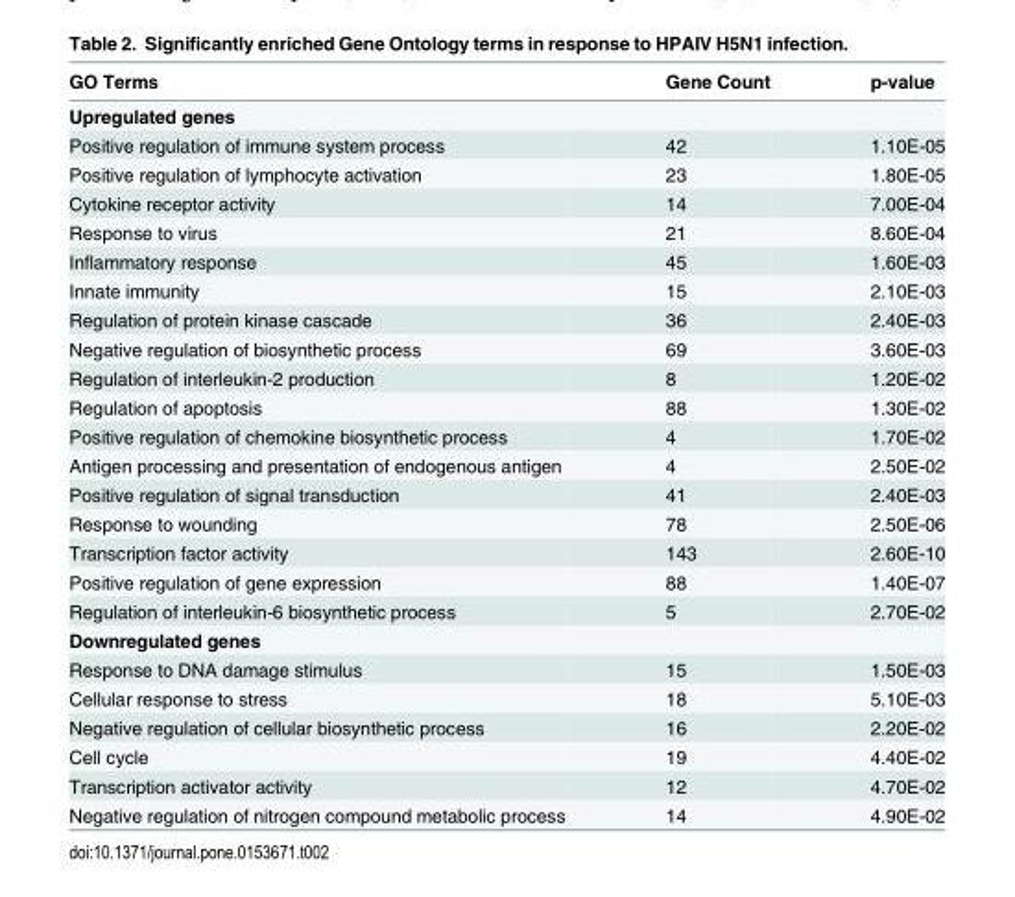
<table><thead><tr><td>GO Terms</td><td>Gene Count</td><td>p-value</td></tr></thead><tbody><tr><td colspan="3">Upregulated genes</td></tr><tr><td>Positive regulation of immune system process</td><td>42</td><td>1.10E-05</td></tr><tr><td>Positive regulation of lymphocyte activation</td><td>23</td><td>1.80E-05</td></tr><tr><td>Cytokine receptor activity</td><td>14</td><td>7.00E-04</td></tr><tr><td>Response to virus</td><td>21</td><td>8.60E-04</td></tr><tr><td>Inflammatory response</td><td>45</td><td>1.60E-03</td></tr><tr><td>Innate immunity</td><td>15</td><td>2.10E-03</td></tr><tr><td>Regulation of protein kinase cascade</td><td>36</td><td>2.40E-03</td></tr><tr><td>Negative regulation of biosynthetic process</td><td>69</td><td>3.60E-03</td></tr><tr><td>Regulation of interleukin-2 production</td><td>8</td><td>1.20E-02</td></tr><tr><td>Regulation of apoptosis</td><td>88</td><td>1.30E-02</td></tr><tr><td>Positive regulation of chemokine biosynthetic process</td><td>4</td><td>1.70E-02</td></tr><tr><td>Antigen processing and presentation of endogenous antigen</td><td>4</td><td>2.50E-02</td></tr><tr><td>Positive regulation of signal transduction</td><td>41</td><td>2.40E-03</td></tr><tr><td>Response to wounding</td><td>78</td><td>2.50E-06</td></tr><tr><td>Transcription factor activity</td><td>143</td><td>2.60E-10</td></tr><tr><td>Positive regulation of gene expression</td><td>88</td><td>1.40E-07</td></tr><tr><td>Regulation of interleukin-6 biosynthetic process</td><td>5</td><td>2.70E-02</td></tr><tr><td colspan="3">Downregulated genes</td></tr><tr><td>Response to DNA damage stimulus</td><td>15</td><td>1.50E-03</td></tr><tr><td>Cellular response to stress</td><td>18</td><td>5.10E-03</td></tr><tr><td>Negative regulation of cellular biosynthetic process</td><td>16</td><td>2.20E-02</td></tr><tr><td>Cell cycle</td><td>19</td><td>4.40E-02</td></tr><tr><td>Transcription activator activity</td><td>12</td><td>4.70E-02</td></tr><tr><td>Negative regulation of nitrogen compound metabolic process</td><td>14</td><td>4.90E-02</td></tr></tbody></table>